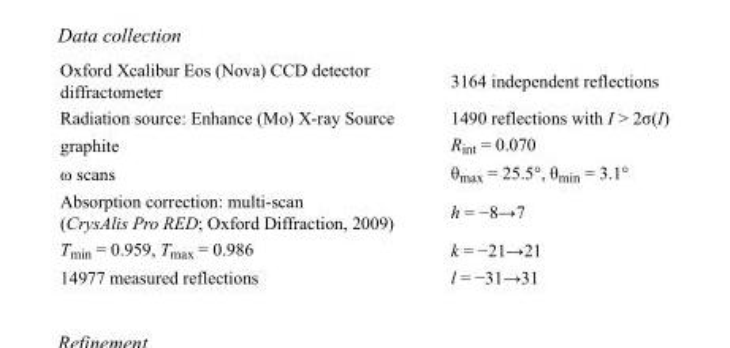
<table><tbody><tr><td>Oxford Xcalibur Eos (Nova) CCD detector diffractometer</td><td>3164 independent reflections</td></tr><tr><td>Radiation source: Enhance (Mo) X-ray Source</td><td>1490 reflections with I &gt; 2σ(I)</td></tr><tr><td>graphite</td><td>R<sub>int</sub> = 0.070</td></tr><tr><td>ω scans</td><td>θ<sub>max</sub> = 25.5°, θ<sub>min</sub> = 3.1°</td></tr><tr><td>Absorption correction: multi-scan (CrysAlis Pro RED; Oxford Diffraction, 2009)</td><td>h = −8→7</td></tr><tr><td>T<sub>min</sub> = 0.959, T<sub>max</sub> = 0.986</td><td>k = −21→21</td></tr><tr><td>14977 measured reflections</td><td>l = −31→31</td></tr></tbody></table>